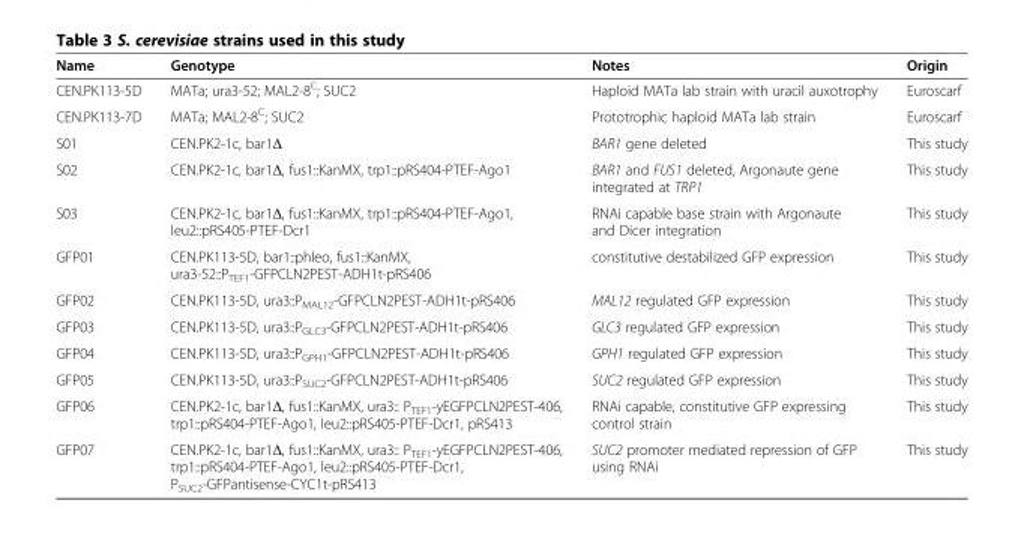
<table><thead><tr><td>Name</td><td>Genotype</td><td>Notes</td><td>Origin</td></tr></thead><tbody><tr><td>CEN.PK113-5D</td><td>MATa; ura3-52; MAL2-8<sup>C</sup>; SUC2</td><td>Haploid MATa lab strain with uracil auxotrophy</td><td>Euroscarf</td></tr><tr><td>CEN.PK113-7D</td><td>MATa; MAL2-8<sup>C</sup>; SUC2</td><td>Prototrophic haploid MATa lab strain</td><td>Euroscarf</td></tr><tr><td>S01</td><td>CEN.PK2-1c, bar1Δ</td><td>BAR1 gene deleted</td><td>This study</td></tr><tr><td>S02</td><td>CEN.PK2-1c, bar1Δ, fus1::KanMX, trp1::pRS404-PTEF-Ago1</td><td>BAR1 and FUS1 deleted, Argonaute gene integrated at TRP1</td><td>This study</td></tr><tr><td>S03</td><td>CEN.PK2-1c, bar1Δ, fus1::KanMX, trp1::pRS404-PTEF-Ago1, leu2::pRS405-PTEF-Dcr1</td><td>RNAi capable base strain with Argonaute and Dicer integration</td><td>This study</td></tr><tr><td>GFP01</td><td>CEN.PK113-5D, bar1::phleo, fus1::KanMX, ura3-52::P<sub>TEF1</sub>-GFPCLN2PEST-ADH1t-pRS406</td><td>constitutive destabilized GFP expression</td><td>This study</td></tr><tr><td>GFP02</td><td>CEN.PK113-5D, ura3::P<sub>MAL12</sub>-GFPCLN2PEST-ADH1t-pRS406</td><td>MAL12 regulated GFP expression</td><td>This study</td></tr><tr><td>GFP03</td><td>CEN.PK113-5D, ura3::P<sub>GLC3</sub>-GFPCLN2PEST-ADH1t-pRS406</td><td>GLC3 regulated GFP expression</td><td>This study</td></tr><tr><td>GFP04</td><td>CEN.PK113-5D, ura3::P<sub>GPH1</sub>-GFPCLN2PEST-ADH1t-pRS406</td><td>GPH1 regulated GFP expression</td><td>This study</td></tr><tr><td>GFP05</td><td>CEN.PK113-5D, ura3::P<sub>SUC2</sub>-GFPCLN2PEST-ADH1t-pRS406</td><td>SUC2 regulated GFP expression</td><td>This study</td></tr><tr><td>GFP06</td><td>CEN.PK2-1c, bar1Δ, fus1::KanMX, ura3:: P<sub>TEF1</sub>-yEGFPCLN2PEST-406, trp1::pRS404-PTEF-Ago1, leu2::pRS405-PTEF-Dcr1, pRS413</td><td>RNAi capable, constitutive GFP expressing control strain</td><td>This study</td></tr><tr><td>GFP07</td><td>CEN.PK2-1c, bar1Δ, fus1::KanMX, ura3:: P<sub>TEF1</sub>-yEGFPCLN2PEST-406, trp1::pRS404-PTEF-Ago1, leu2::pRS405-PTEF-Dcr1, P<sub>SUC2</sub>-GFPantisense-CYC1t-pRS413</td><td>SUC2 promoter mediated repression of GFP using RNAi</td><td>This study</td></tr></tbody></table>